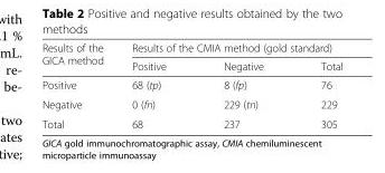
<table><thead><tr><td rowspan="2">Results of the GICA method</td><td colspan="3">Results of the CMIA method (gold standard)</td></tr><tr><td>Positive</td><td>Negative</td><td>Total</td></tr></thead><tbody><tr><td>Positive</td><td>68 (tp)</td><td>8 (fp)</td><td>76</td></tr><tr><td>Negative</td><td>0 (fn)</td><td>229 (tn)</td><td>229</td></tr><tr><td>Total</td><td>68</td><td>237</td><td>305</td></tr></tbody></table>